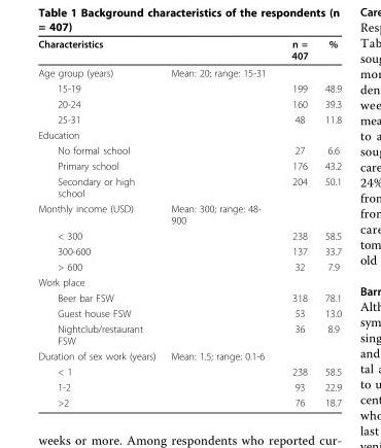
<table><thead><tr><td>Characteristics</td><td></td><td>n = 407</td><td>%</td></tr></thead><tbody><tr><td>Age group (years)</td><td>Mean: 20; range: 15-31</td><td></td><td></td></tr><tr><td>15-19</td><td></td><td>199</td><td>48.9</td></tr><tr><td>20-24</td><td></td><td>160</td><td>39.3</td></tr><tr><td>25-31</td><td></td><td>48</td><td>11.8</td></tr><tr><td colspan="4">Education</td></tr><tr><td>No formal school</td><td></td><td>27</td><td>6.6</td></tr><tr><td>Primary school</td><td></td><td>176</td><td>43.2</td></tr><tr><td>Secondary or high school</td><td></td><td>204</td><td>50.1</td></tr><tr><td>Monthly income (USD)</td><td>Mean: 300; range: 48- 900</td><td></td><td></td></tr><tr><td>&lt; 300</td><td></td><td>238</td><td>58.5</td></tr><tr><td>300-600</td><td></td><td>137</td><td>33.7</td></tr><tr><td>&gt; 600</td><td></td><td>32</td><td>7.9</td></tr><tr><td colspan="4">Work place</td></tr><tr><td>Beer bar FSW</td><td></td><td>318</td><td>78.1</td></tr><tr><td>Guest house FSW</td><td></td><td>53</td><td>13.0</td></tr><tr><td>Nightclub/restaurant FSW</td><td></td><td>36</td><td>8.9</td></tr><tr><td>Duration of sex work (years)</td><td>Mean: 1.5; range: 0.1-6</td><td></td><td></td></tr><tr><td>&lt; 1</td><td></td><td>238</td><td>58.5</td></tr><tr><td>1-2</td><td></td><td>93</td><td>22.9</td></tr><tr><td>&gt;2</td><td></td><td>76</td><td>18.7</td></tr></tbody></table>